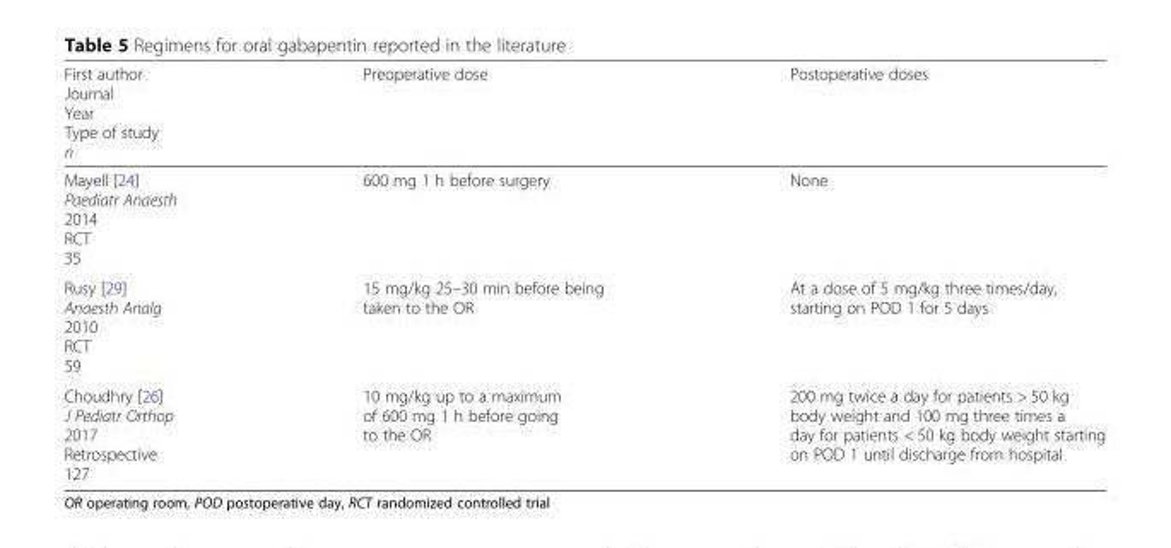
<table><thead><tr><td>First author Journal Year Type of study n</td><td>Preoperative dose</td><td>Postoperative doses</td></tr></thead><tbody><tr><td>Mayell [24] Paediatr Anaesth 2014 RCT 35</td><td>600 mg 1 h before surgery</td><td>None</td></tr><tr><td>Rusy [29] Anaesth Analg 2010 RCT 59</td><td>15 mg/kg 25–30 min before being taken to the OR</td><td>At a dose of 5 mg/kg three times/day, starting on POD 1 for 5 days</td></tr><tr><td>Choudhry [26] J Pediatr Orthop 2017 Retrospective 127</td><td>10 mg/kg up to a maximum of 600 mg 1 h before going to the OR</td><td>200 mg twice a day for patients &gt; 50 kg body weight and 100 mg three times a day for patients &lt; 50 kg body weight starting on POD 1 until discharge from hospital</td></tr></tbody></table>